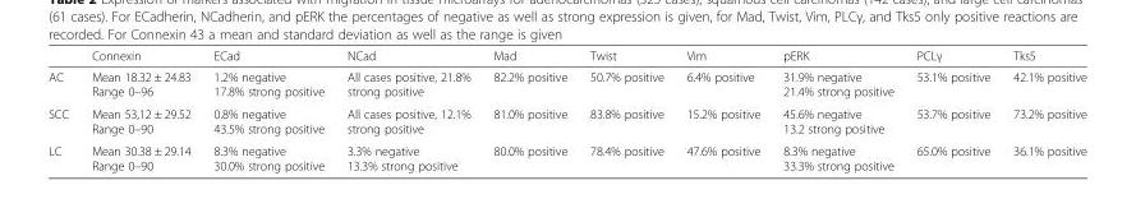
<table><thead><tr><td></td><td>Connexin</td><td>ECad</td><td>NCad</td><td>Mad</td><td>Twist</td><td>Vim</td><td>pERK</td><td>PCLγ</td><td>Tks5</td></tr></thead><tbody><tr><td>AC</td><td>Mean 18.32 ± 24.83 Range 0–96</td><td>1.2% negative 17.8% strong positive</td><td>All cases positive, 21.8% strong positive</td><td>82.2% positive</td><td>50.7% positive</td><td>6.4% positive</td><td>31.9% negative 21.4% strong positive</td><td>53.1% positive</td><td>42.1% positive</td></tr><tr><td>SCC</td><td>Mean 53,12 ± 29.52 Range 0–90</td><td>0.8% negative 43.5% strong positive</td><td>All cases positive, 12.1% strong positive</td><td>81.0% positive</td><td>83.8% positive</td><td>15.2% positive</td><td>45.6% negative 13.2 strong positive</td><td>53.7% positive</td><td>73.2% positive</td></tr><tr><td>LC</td><td>Mean 30.38 ± 29.14 Range 0–90</td><td>8.3% negative 30.0% strong positive</td><td>3.3% negative 13.3% strong positive</td><td>80.0% positive</td><td>78.4% positive</td><td>47.6% positive</td><td>8.3% negative 33.3% strong positive</td><td>65.0% positive</td><td>36.1% positive</td></tr></tbody></table>